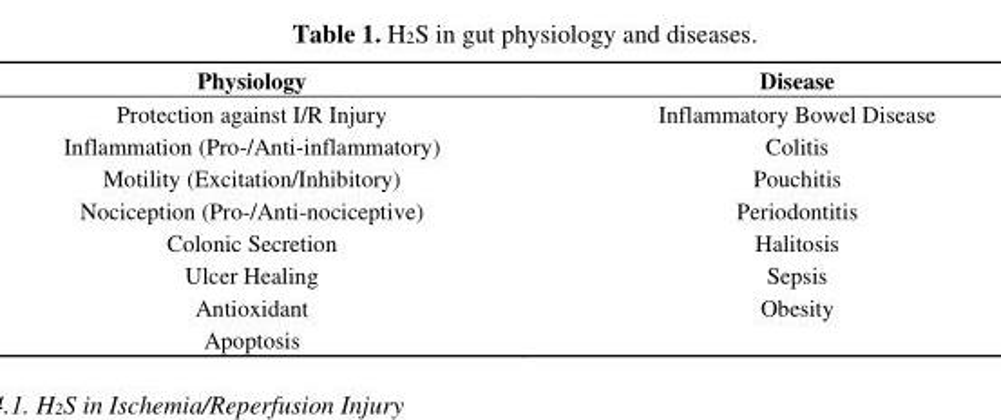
<table><thead><tr><td>Physiology</td><td>Disease</td></tr></thead><tbody><tr><td>Protection against I/R Injury</td><td>Inflammatory Bowel Disease</td></tr><tr><td>Inflammation (Pro-/Anti-inflammatory)</td><td>Colitis</td></tr><tr><td>Motility (Excitation/Inhibitory)</td><td>Pouchitis</td></tr><tr><td>Nociception (Pro-/Anti-nociceptive)</td><td>Periodontitis</td></tr><tr><td>Colonic Secretion</td><td>Halitosis</td></tr><tr><td>Ulcer Healing</td><td>Sepsis</td></tr><tr><td>Antioxidant</td><td>Obesity</td></tr><tr><td>Apoptosis</td><td></td></tr></tbody></table>